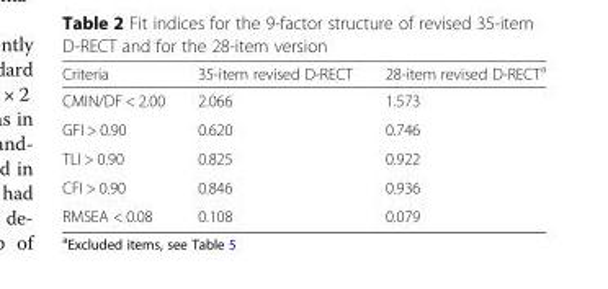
<table><thead><tr><td>Criteria</td><td>35-item revised D-RECT</td><td>28-item revised D-RECT<sup>a</sup></td></tr></thead><tbody><tr><td>CMIN/DF &lt; 2.00</td><td>2.066</td><td>1.573</td></tr><tr><td>GFI &gt; 0.90</td><td>0.620</td><td>0.746</td></tr><tr><td>TLI &gt; 0.90</td><td>0.825</td><td>0.922</td></tr><tr><td>CFI &gt; 0.90</td><td>0.846</td><td>0.936</td></tr><tr><td>RMSEA &lt; 0.08</td><td>0.108</td><td>0.079</td></tr></tbody></table>